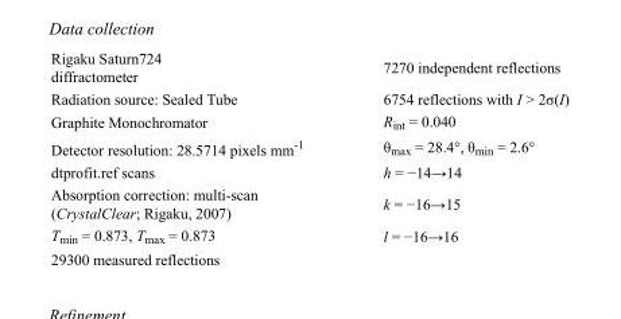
<table><tbody><tr><td>Rigaku Saturn724 diffractometer</td><td>7270 independent reflections</td></tr><tr><td>Radiation source: Sealed Tube</td><td>6754 reflections with I &gt; 2σ(I)</td></tr><tr><td>Graphite Monochromator</td><td>R<sub>int</sub> = 0.040</td></tr><tr><td>Detector resolution: 28.5714 pixels mm<sup>-1</sup></td><td>θ<sub>max</sub> = 28.4°, θ<sub>min</sub> = 2.6°</td></tr><tr><td>dtprofit.ref scans</td><td>h = −14→14</td></tr><tr><td>Absorption correction: multi-scan (CrystalClear; Rigaku, 2007)</td><td>k = −16→15</td></tr><tr><td>T<sub>min</sub> = 0.873, T<sub>max</sub> = 0.873</td><td>l = −16→16</td></tr><tr><td>29300 measured reflections</td><td></td></tr></tbody></table>